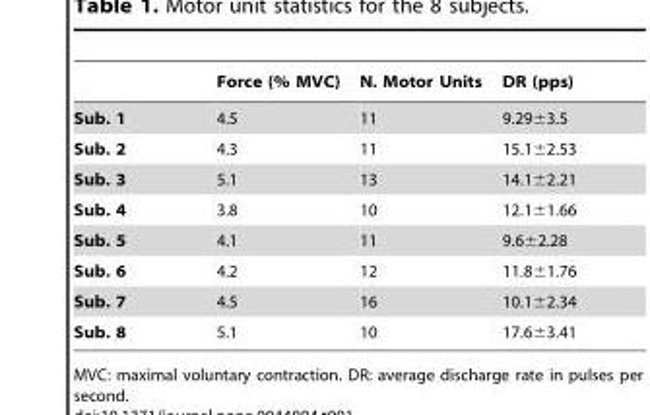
<table><thead><tr><td></td><td>Force (% MVC)</td><td>N. Motor Units</td><td>DR (pps)</td></tr></thead><tbody><tr><td>Sub. 1</td><td>4.5</td><td>11</td><td>9.29±3.5</td></tr><tr><td>Sub. 2</td><td>4.3</td><td>11</td><td>15.1±2.53</td></tr><tr><td>Sub. 3</td><td>5.1</td><td>13</td><td>14.1±2.21</td></tr><tr><td>Sub. 4</td><td>3.8</td><td>10</td><td>12.1±1.66</td></tr><tr><td>Sub. 5</td><td>4.1</td><td>11</td><td>9.6±2.28</td></tr><tr><td>Sub. 6</td><td>4.2</td><td>12</td><td>11.8±1.76</td></tr><tr><td>Sub. 7</td><td>4.5</td><td>16</td><td>10.1±2.34</td></tr><tr><td>Sub. 8</td><td>5.1</td><td>10</td><td>17.6±3.41</td></tr></tbody></table>